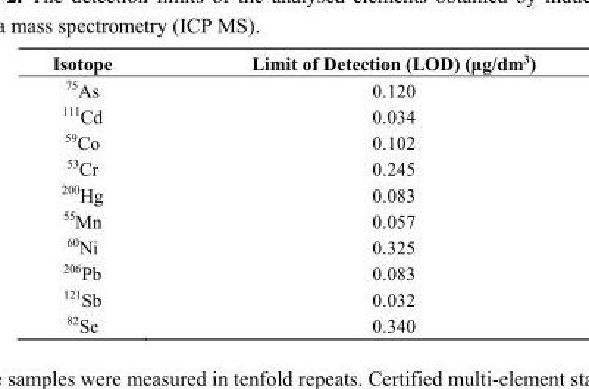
<table><thead><tr><td>Isotope</td><td>Limit of Detection (LOD) (μg/dm<sup>3</sup>)</td></tr></thead><tbody><tr><td><sup>75</sup>As</td><td>0.120</td></tr><tr><td><sup>111</sup>Cd</td><td>0.034</td></tr><tr><td><sup>59</sup>Co</td><td>0.102</td></tr><tr><td><sup>53</sup>Cr</td><td>0.245</td></tr><tr><td><sup>200</sup>Hg</td><td>0.083</td></tr><tr><td><sup>55</sup>Mn</td><td>0.057</td></tr><tr><td><sup>60</sup>Ni</td><td>0.325</td></tr><tr><td><sup>206</sup>Pb</td><td>0.083</td></tr><tr><td><sup>121</sup>Sb</td><td>0.032</td></tr><tr><td><sup>82</sup>Se</td><td>0.340</td></tr></tbody></table>